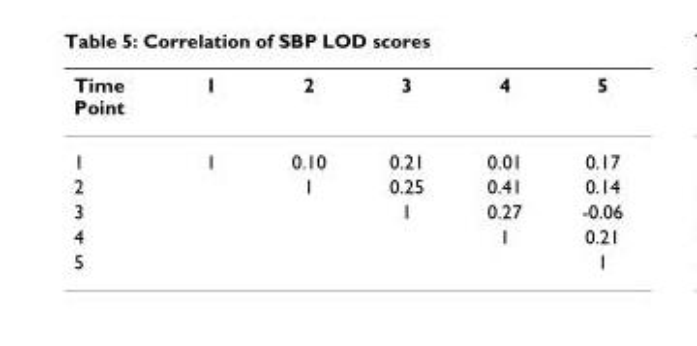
<table><thead><tr><td>Time Point</td><td>1</td><td>2</td><td>3</td><td>4</td><td>5</td></tr></thead><tbody><tr><td>1</td><td>1</td><td>0.10</td><td>0.21</td><td>0.01</td><td>0.17</td></tr><tr><td>2</td><td></td><td>1</td><td>0.25</td><td>0.41</td><td>0.14</td></tr><tr><td>3</td><td></td><td></td><td>1</td><td>0.27</td><td>-0.06</td></tr><tr><td>4</td><td></td><td></td><td></td><td>1</td><td>0.21</td></tr><tr><td>5</td><td></td><td></td><td></td><td></td><td>1</td></tr></tbody></table>